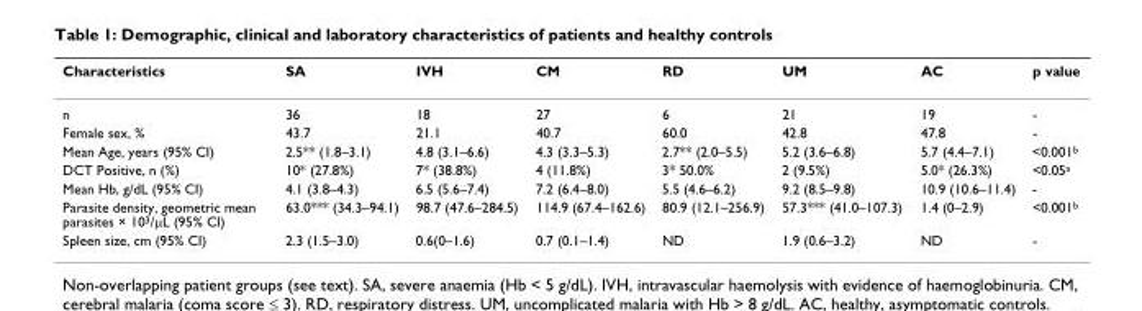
<table><thead><tr><td>Characteristics</td><td>SA</td><td>IVH</td><td>CM</td><td>RD</td><td>UM</td><td>AC</td><td>p value</td></tr></thead><tbody><tr><td>n</td><td>36</td><td>18</td><td>27</td><td>6</td><td>21</td><td>19</td><td>-</td></tr><tr><td>Female sex, %</td><td>43.7</td><td>21.1</td><td>40.7</td><td>60.0</td><td>42.8</td><td>47.8</td><td>-</td></tr><tr><td>Mean Age, years (95% CI)</td><td>2.5** (1.8–3.1)</td><td>4.8 (3.1–6.6)</td><td>4.3 (3.3–5.3)</td><td>2.7** (2.0–5.5)</td><td>5.2 (3.6–6.8)</td><td>5.7 (4.4–7.1)</td><td>&lt;0.001<sup>b</sup></td></tr><tr><td>DCT Positive, n (%)</td><td>10* (27.8%)</td><td>7* (38.8%)</td><td>4 (11.8%)</td><td>3* 50.0%</td><td>2 (9.5%)</td><td>5.0* (26.3%)</td><td>&lt;0.05<sup>a</sup></td></tr><tr><td>Mean Hb, g/dL (95% CI)</td><td>4.1 (3.8–4.3)</td><td>6.5 (5.6–7.4)</td><td>7.2 (6.4–8.0)</td><td>5.5 (4.6–6.2)</td><td>9.2 (8.5–9.8)</td><td>10.9 (10.6–11.4)</td><td>-</td></tr><tr><td>Parasite density, geometric mean parasites × 10<sup>3</sup>/µL (95% CI)</td><td>63.0*** (34.3–94.1)</td><td>98.7 (47.6–284.5)</td><td>114.9 (67.4–162.6)</td><td>80.9 (12.1–256.9)</td><td>57.3*** (41.0–107.3)</td><td>1.4 (0–2.9)</td><td>&lt;0.001<sup>b</sup></td></tr><tr><td>Spleen size, cm (95% CI)</td><td>2.3 (1.5–3.0)</td><td>0.6(0–1.6)</td><td>0.7 (0.1–1.4)</td><td>ND</td><td>1.9 (0.6–3.2)</td><td>ND</td><td>-</td></tr></tbody></table>